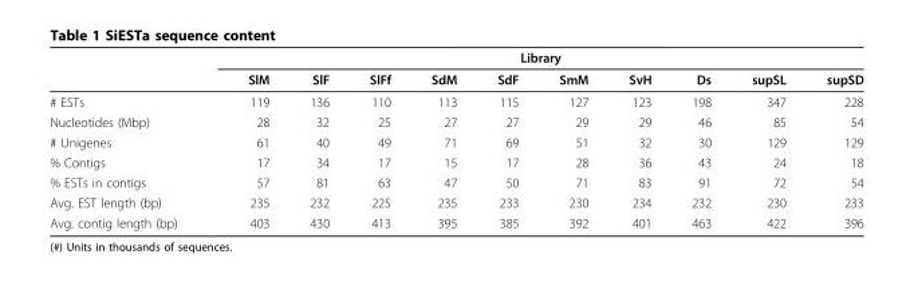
<table><thead><tr><td rowspan="2"></td><td colspan="10">Library</td></tr><tr><td>SlM</td><td>SlF</td><td>SlFf</td><td>SdM</td><td>SdF</td><td>SmM</td><td>SvH</td><td>Ds</td><td>supSL</td><td>supSD</td></tr></thead><tbody><tr><td># ESTs</td><td>119</td><td>136</td><td>110</td><td>113</td><td>115</td><td>127</td><td>123</td><td>198</td><td>347</td><td>228</td></tr><tr><td>Nucleotides (Mbp)</td><td>28</td><td>32</td><td>25</td><td>27</td><td>27</td><td>29</td><td>29</td><td>46</td><td>85</td><td>54</td></tr><tr><td># Unigenes</td><td>61</td><td>40</td><td>49</td><td>71</td><td>69</td><td>51</td><td>32</td><td>30</td><td>129</td><td>129</td></tr><tr><td>% Contigs</td><td>17</td><td>34</td><td>17</td><td>15</td><td>17</td><td>28</td><td>36</td><td>43</td><td>24</td><td>18</td></tr><tr><td>% ESTs in contigs</td><td>57</td><td>81</td><td>63</td><td>47</td><td>50</td><td>71</td><td>83</td><td>91</td><td>72</td><td>54</td></tr><tr><td>Avg. EST length (bp)</td><td>235</td><td>232</td><td>225</td><td>235</td><td>233</td><td>230</td><td>234</td><td>232</td><td>230</td><td>233</td></tr><tr><td>Avg. contig length (bp)</td><td>403</td><td>430</td><td>413</td><td>395</td><td>385</td><td>392</td><td>401</td><td>463</td><td>422</td><td>396</td></tr></tbody></table>